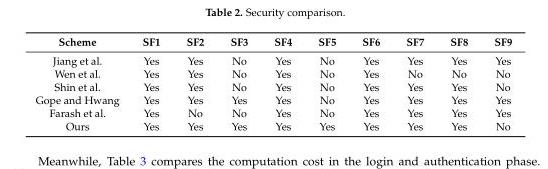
<table><thead><tr><td>Scheme</td><td>SF1</td><td>SF2</td><td>SF3</td><td>SF4</td><td>SF5</td><td>SF6</td><td>SF7</td><td>SF8</td><td>SF9</td></tr></thead><tbody><tr><td>Jiang et al.</td><td>Yes</td><td>Yes</td><td>No</td><td>Yes</td><td>No</td><td>Yes</td><td>Yes</td><td>Yes</td><td>Yes</td></tr><tr><td>Wen et al.</td><td>Yes</td><td>Yes</td><td>No</td><td>Yes</td><td>No</td><td>Yes</td><td>No</td><td>No</td><td>No</td></tr><tr><td>Shin et al.</td><td>Yes</td><td>Yes</td><td>No</td><td>Yes</td><td>No</td><td>Yes</td><td>Yes</td><td>Yes</td><td>No</td></tr><tr><td>Gope and Hwang</td><td>Yes</td><td>Yes</td><td>Yes</td><td>Yes</td><td>No</td><td>Yes</td><td>Yes</td><td>Yes</td><td>Yes</td></tr><tr><td>Farash et al.</td><td>Yes</td><td>No</td><td>No</td><td>Yes</td><td>No</td><td>Yes</td><td>Yes</td><td>Yes</td><td>Yes</td></tr><tr><td>Ours</td><td>Yes</td><td>Yes</td><td>Yes</td><td>Yes</td><td>Yes</td><td>Yes</td><td>Yes</td><td>Yes</td><td>No</td></tr></tbody></table>